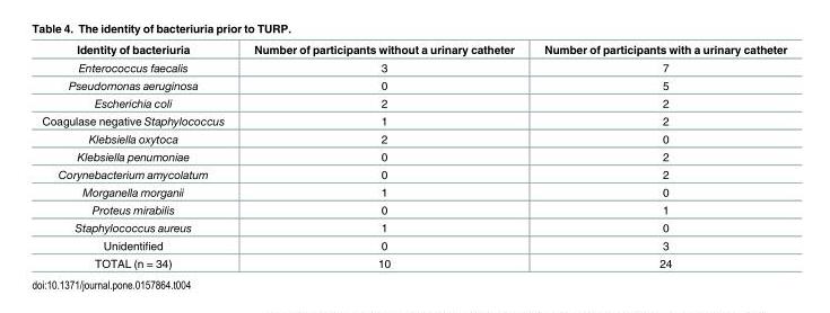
<table><thead><tr><td>Identity of bacteriuria</td><td>Number of participants without a urinary catheter</td><td>Number of participants with a urinary catheter</td></tr></thead><tbody><tr><td>Enterococcus faecalis</td><td>3</td><td>7</td></tr><tr><td>Pseudomonas aeruginosa</td><td>0</td><td>5</td></tr><tr><td>Escherichia coli</td><td>2</td><td>2</td></tr><tr><td>Coagulase negative Staphylococcus</td><td>1</td><td>2</td></tr><tr><td>Klebsiella oxytoca</td><td>2</td><td>0</td></tr><tr><td>Klebsiella penumoniae</td><td>0</td><td>2</td></tr><tr><td>Corynebacterium amycolatum</td><td>0</td><td>2</td></tr><tr><td>Morganella morganii</td><td>1</td><td>0</td></tr><tr><td>Proteus mirabilis</td><td>0</td><td>1</td></tr><tr><td>Staphylococcus aureus</td><td>1</td><td>0</td></tr><tr><td>Unidentified</td><td>0</td><td>3</td></tr><tr><td>TOTAL (n = 34)</td><td>10</td><td>24</td></tr></tbody></table>